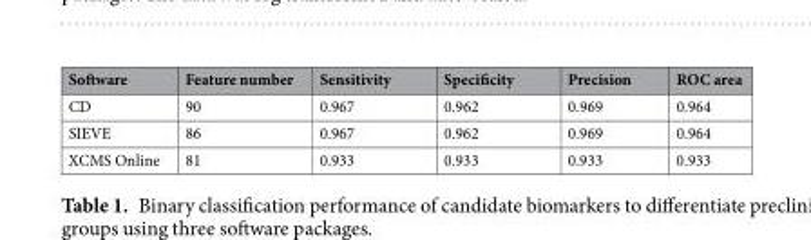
<table><thead><tr><td>Software</td><td>Feature number</td><td>Sensitivity</td><td>Specificity</td><td>Precision</td><td>ROC area</td></tr></thead><tbody><tr><td>CD</td><td>90</td><td>0.967</td><td>0.962</td><td>0.969</td><td>0.964</td></tr><tr><td>SIEVE</td><td>86</td><td>0.967</td><td>0.962</td><td>0.969</td><td>0.964</td></tr><tr><td>XCMS Online</td><td>81</td><td>0.933</td><td>0.933</td><td>0.933</td><td>0.933</td></tr></tbody></table>